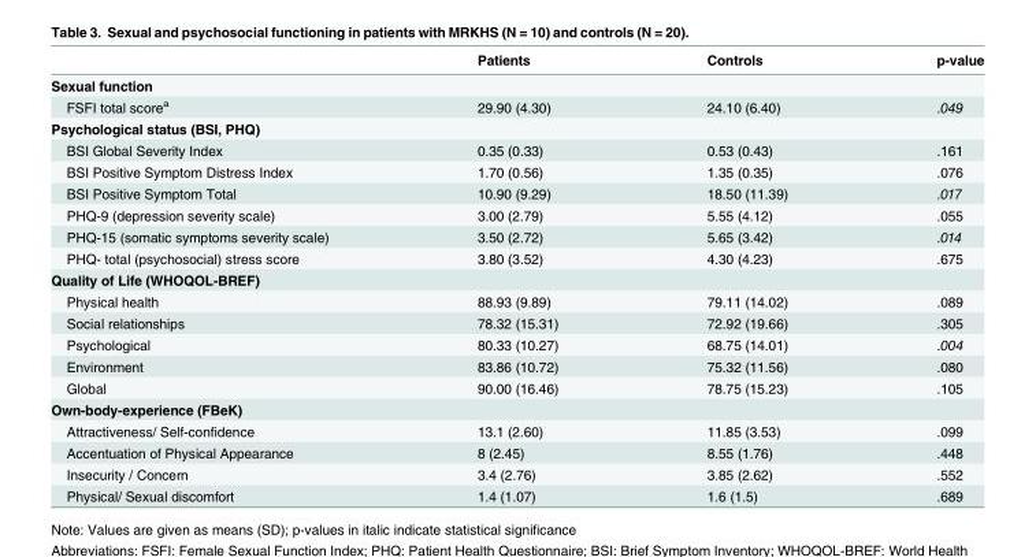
<table><thead><tr><td></td><td>Patients</td><td>Controls</td><td>p-value</td></tr></thead><tbody><tr><td colspan="4">Sexual function</td></tr><tr><td>FSFI total score<sup>a</sup></td><td>29.90 (4.30)</td><td>24.10 (6.40)</td><td>.049</td></tr><tr><td colspan="4">Psychological status (BSI, PHQ)</td></tr><tr><td>BSI Global Severity Index</td><td>0.35 (0.33)</td><td>0.53 (0.43)</td><td>.161</td></tr><tr><td>BSI Positive Symptom Distress Index</td><td>1.70 (0.56)</td><td>1.35 (0.35)</td><td>.076</td></tr><tr><td>BSI Positive Symptom Total</td><td>10.90 (9.29)</td><td>18.50 (11.39)</td><td>.017</td></tr><tr><td>PHQ-9 (depression severity scale)</td><td>3.00 (2.79)</td><td>5.55 (4.12)</td><td>.055</td></tr><tr><td>PHQ-15 (somatic symptoms severity scale)</td><td>3.50 (2.72)</td><td>5.65 (3.42)</td><td>.014</td></tr><tr><td>PHQ- total (psychosocial) stress score</td><td>3.80 (3.52)</td><td>4.30 (4.23)</td><td>.675</td></tr><tr><td colspan="4">Quality of Life (WHOQOL-BREF)</td></tr><tr><td>Physical health</td><td>88.93 (9.89)</td><td>79.11 (14.02)</td><td>.089</td></tr><tr><td>Social relationships</td><td>78.32 (15.31)</td><td>72.92 (19.66)</td><td>.305</td></tr><tr><td>Psychological</td><td>80.33 (10.27)</td><td>68.75 (14.01)</td><td>.004</td></tr><tr><td>Environment</td><td>83.86 (10.72)</td><td>75.32 (11.56)</td><td>.080</td></tr><tr><td>Global</td><td>90.00 (16.46)</td><td>78.75 (15.23)</td><td>.105</td></tr><tr><td colspan="4">Own-body-experience (FBeK)</td></tr><tr><td>Attractiveness/ Self-confidence</td><td>13.1 (2.60)</td><td>11.85 (3.53)</td><td>.099</td></tr><tr><td>Accentuation of Physical Appearance</td><td>8 (2.45)</td><td>8.55 (1.76)</td><td>.448</td></tr><tr><td>Insecurity / Concern</td><td>3.4 (2.76)</td><td>3.85 (2.62)</td><td>.552</td></tr><tr><td>Physical/ Sexual discomfort</td><td>1.4 (1.07)</td><td>1.6 (1.5)</td><td>.689</td></tr></tbody></table>